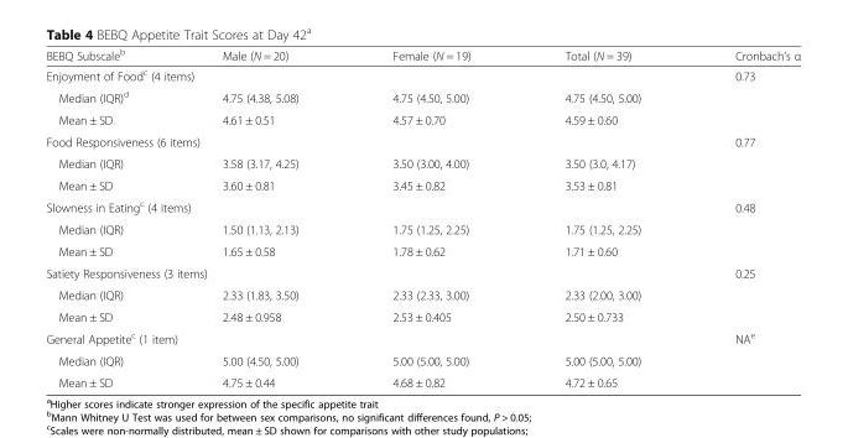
<table><thead><tr><td>BEBQ Subscale<sup>b</sup></td><td>Male (N = 20)</td><td>Female (N = 19)</td><td>Total (N = 39)</td><td>Cronbach’s α</td></tr></thead><tbody><tr><td colspan="4">Enjoyment of Food<sup>c</sup> (4 items)</td><td>0.73</td></tr><tr><td>Median (IQR)<sup>d</sup></td><td>4.75 (4.38, 5.08)</td><td>4.75 (4.50, 5.00)</td><td>4.75 (4.50, 5.00)</td><td rowspan="2"></td></tr><tr><td>Mean ± SD</td><td>4.61 ± 0.51</td><td>4.57 ± 0.70</td><td>4.59 ± 0.60</td></tr><tr><td colspan="4">Food Responsiveness (6 items)</td><td>0.77</td></tr><tr><td>Median (IQR)</td><td>3.58 (3.17, 4.25)</td><td>3.50 (3.00, 4.00)</td><td>3.50 (3.0, 4.17)</td><td rowspan="2"></td></tr><tr><td>Mean ± SD</td><td>3.60 ± 0.81</td><td>3.45 ± 0.82</td><td>3.53 ± 0.81</td></tr><tr><td colspan="4">Slowness in Eating<sup>c</sup> (4 items)</td><td>0.48</td></tr><tr><td>Median (IQR)</td><td>1.50 (1.13, 2.13)</td><td>1.75 (1.25, 2.25)</td><td>1.75 (1.25, 2.25)</td><td rowspan="2"></td></tr><tr><td>Mean ± SD</td><td>1.65 ± 0.58</td><td>1.78 ± 0.62</td><td>1.71 ± 0.60</td></tr><tr><td colspan="4">Satiety Responsiveness (3 items)</td><td>0.25</td></tr><tr><td>Median (IQR)</td><td>2.33 (1.83, 3.50)</td><td>2.33 (2.33, 3.00)</td><td>2.33 (2.00, 3.00)</td><td rowspan="2"></td></tr><tr><td>Mean ± SD</td><td>2.48 ± 0.958</td><td>2.53 ± 0.405</td><td>2.50 ± 0.733</td></tr><tr><td colspan="4">General Appetite<sup>c</sup> (1 item)</td><td>NA<sup>e</sup></td></tr><tr><td>Median (IQR)</td><td>5.00 (4.50, 5.00)</td><td>5.00 (5.00, 5.00)</td><td>5.00 (5.00, 5.00)</td><td rowspan="2"></td></tr><tr><td>Mean ± SD</td><td>4.75 ± 0.44</td><td>4.68 ± 0.82</td><td>4.72 ± 0.65</td></tr></tbody></table>